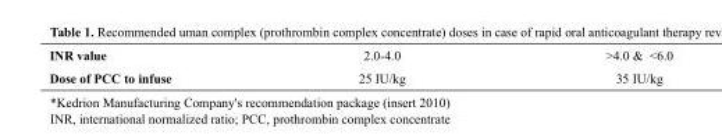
<table><tbody><tr><td>INR value</td><td>2.0-4.0</td><td>&gt;4.0 &amp; &lt;6.0</td></tr><tr><td>Dose of PCC to infuse</td><td>25 IU/kg</td><td>35 IU/kg</td></tr></tbody></table>